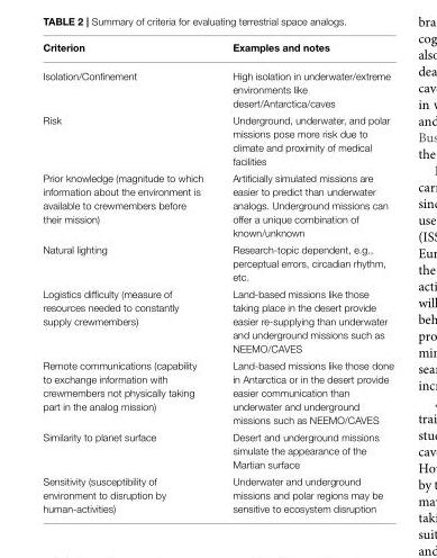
<table><thead><tr><td>Criterion</td><td>Examples and notes</td></tr></thead><tbody><tr><td>Isolation/Confinement</td><td>High isolation in underwater/extreme environments like desert/Antarctica/caves</td></tr><tr><td>Risk</td><td>Underground, underwater, and polar missions pose more risk due to climate and proximity of medical facilities</td></tr><tr><td>Prior knowledge (magnitude to which information about the environment is available to crewmembers before their mission)</td><td>Artificially simulated missions are easier to predict than underwater analogs. Underground missions can offer a unique combination of known/unknown</td></tr><tr><td>Natural lighting</td><td>Research-topic dependent, e.g., perceptual errors, circadian rhythm, etc.</td></tr><tr><td>Logistics difficulty (measure of resources needed to constantly supply crewmembers)</td><td>Land-based missions like those taking place in the desert provide easier re-supplying than underwater and underground missions such as NEEMO/CAVES</td></tr><tr><td>Remote communications (capability to exchange information with crewmembers not physically taking part in the analog mission)</td><td>Land-based missions like those done in Antarctica or in the desert provide easier communication than underwater and underground missions such as NEEMO/CAVES</td></tr><tr><td>Similarity to planet surface</td><td>Desert and underground missions simulate the appearance of the Martian surface</td></tr><tr><td>Sensitivity (susceptibility of environment to disruption by human-activities)</td><td>Underwater and underground missions and polar regions may be sensitive to ecosystem disruption</td></tr></tbody></table>